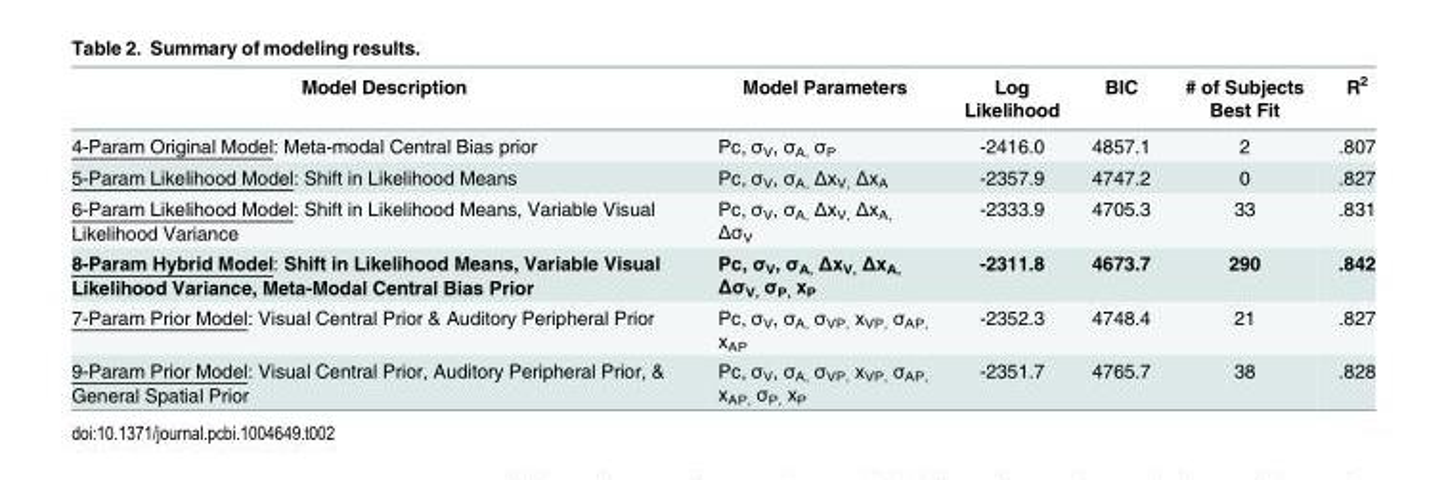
<table><thead><tr><td>Model Description</td><td>Model Parameters</td><td>Log Likelihood</td><td>BIC</td><td># of Subjects Best Fit</td><td>R<sup>2</sup></td></tr></thead><tbody><tr><td>4-Param Original Model: Meta-modal Central Bias prior</td><td>Pc, σ<sub>V</sub>, σ<sub>A,</sub> σ<sub>P</sub></td><td>-2416.0</td><td>4857.1</td><td>2</td><td>.807</td></tr><tr><td>5-Param Likelihood Model: Shift in Likelihood Means</td><td>Pc, σ<sub>V</sub>, σ<sub>A,</sub> Δx<sub>V,</sub> Δx<sub>A</sub></td><td>-2357.9</td><td>4747.2</td><td>0</td><td>.827</td></tr><tr><td>6-Param Likelihood Model: Shift in Likelihood Means, Variable Visual Likelihood Variance</td><td>Pc, σ<sub>V</sub>, σ<sub>A,</sub> Δx<sub>V,</sub> Δx<sub>A,</sub> Δσ<sub>V</sub></td><td>-2333.9</td><td>4705.3</td><td>33</td><td>.831</td></tr><tr><td>8-Param Hybrid Model: Shift in Likelihood Means, Variable Visual Likelihood Variance, Meta-Modal Central Bias Prior</td><td>Pc, σV, σA, ΔxV, ΔxA, ΔσV, σP, xP</td><td>-2311.8</td><td>4673.7</td><td>290</td><td>.842</td></tr><tr><td>7-Param Prior Model: Visual Central Prior &amp; Auditory Peripheral Prior</td><td>Pc, σ<sub>V</sub>, σ<sub>A,</sub> σ<sub>VP,</sub> x<sub>VP,</sub> σ<sub>AP,</sub> x<sub>AP</sub></td><td>-2352.3</td><td>4748.4</td><td>21</td><td>.827</td></tr><tr><td>9-Param Prior Model: Visual Central Prior, Auditory Peripheral Prior, &amp; General Spatial Prior</td><td>Pc, σ<sub>V</sub>, σ<sub>A,</sub> σ<sub>VP,</sub> x<sub>VP,</sub> σ<sub>AP,</sub> x<sub>AP,</sub> σ<sub>P,</sub> x<sub>P</sub></td><td>-2351.7</td><td>4765.7</td><td>38</td><td>.828</td></tr></tbody></table>